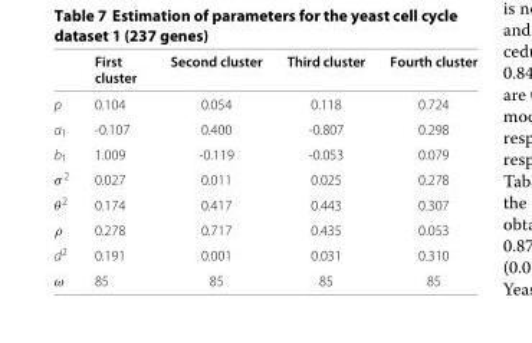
<table><thead><tr><td></td><td>First cluster</td><td>Second cluster</td><td>Third cluster</td><td>Fourth cluster</td></tr></thead><tbody><tr><td>p</td><td>0.104</td><td>0.054</td><td>0.118</td><td>0.724</td></tr><tr><td>a<sub>1</sub></td><td>-0.107</td><td>0.400</td><td>-0.807</td><td>0.298</td></tr><tr><td>b<sub>1</sub></td><td>1.009</td><td>-0.119</td><td>-0.053</td><td>0.079</td></tr><tr><td>σ <sup>2</sup></td><td>0.027</td><td>0.011</td><td>0.025</td><td>0.278</td></tr><tr><td>θ<sup>2</sup></td><td>0.174</td><td>0.417</td><td>0.443</td><td>0.307</td></tr><tr><td>ρ</td><td>0.278</td><td>0.717</td><td>0.435</td><td>0.053</td></tr><tr><td>d<sup>2</sup></td><td>0.191</td><td>0.001</td><td>0.031</td><td>0.310</td></tr><tr><td>ω</td><td>85</td><td>85</td><td>85</td><td>85</td></tr></tbody></table>